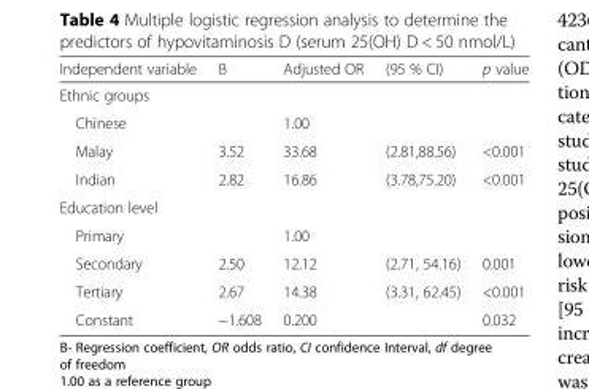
<table><thead><tr><td>Independent variable</td><td>B</td><td>Adjusted OR</td><td>(95 % CI)</td><td>p value</td></tr></thead><tbody><tr><td colspan="5">Ethnic groups</td></tr><tr><td>Chinese</td><td></td><td>1.00</td><td></td><td></td></tr><tr><td>Malay</td><td>3.52</td><td>33.68</td><td>(2.81,88.56)</td><td>&lt;0.001</td></tr><tr><td>Indian</td><td>2.82</td><td>16.86</td><td>(3.78,75.20)</td><td>&lt;0.001</td></tr><tr><td colspan="5">Education level</td></tr><tr><td>Primary</td><td></td><td>1.00</td><td></td><td></td></tr><tr><td>Secondary</td><td>2.50</td><td>12.12</td><td>(2.71, 54.16)</td><td>0.001</td></tr><tr><td>Tertiary</td><td>2.67</td><td>14.38</td><td>(3.31, 62.45)</td><td>&lt;0.001</td></tr><tr><td>Constant</td><td>−1.608</td><td>0.200</td><td></td><td>0.032</td></tr></tbody></table>